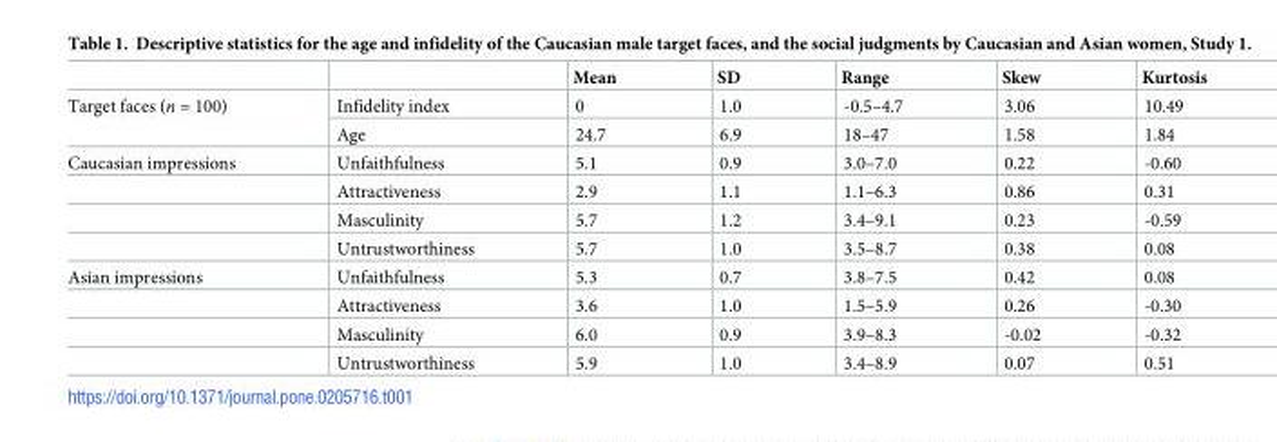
<table><thead><tr><td></td><td></td><td>Mean</td><td>SD</td><td>Range</td><td>Skew</td><td>Kurtosis</td></tr></thead><tbody><tr><td rowspan="2">Target faces (n = 100)</td><td>Infidelity index</td><td>0</td><td>1.0</td><td>-0.5–4.7</td><td>3.06</td><td>10.49</td></tr><tr><td>Age</td><td>24.7</td><td>6.9</td><td>18–47</td><td>1.58</td><td>1.84</td></tr><tr><td rowspan="4">Caucasian impressions</td><td>Unfaithfulness</td><td>5.1</td><td>0.9</td><td>3.0–7.0</td><td>0.22</td><td>-0.60</td></tr><tr><td>Attractiveness</td><td>2.9</td><td>1.1</td><td>1.1–6.3</td><td>0.86</td><td>0.31</td></tr><tr><td>Masculinity</td><td>5.7</td><td>1.2</td><td>3.4–9.1</td><td>0.23</td><td>-0.59</td></tr><tr><td>Untrustworthiness</td><td>5.7</td><td>1.0</td><td>3.5–8.7</td><td>0.38</td><td>0.08</td></tr><tr><td rowspan="4">Asian impressions</td><td>Unfaithfulness</td><td>5.3</td><td>0.7</td><td>3.8–7.5</td><td>0.42</td><td>0.08</td></tr><tr><td>Attractiveness</td><td>3.6</td><td>1.0</td><td>1.5–5.9</td><td>0.26</td><td>-0.30</td></tr><tr><td>Masculinity</td><td>6.0</td><td>0.9</td><td>3.9–8.3</td><td>-0.02</td><td>-0.32</td></tr><tr><td>Untrustworthiness</td><td>5.9</td><td>1.0</td><td>3.4–8.9</td><td>0.07</td><td>0.51</td></tr></tbody></table>